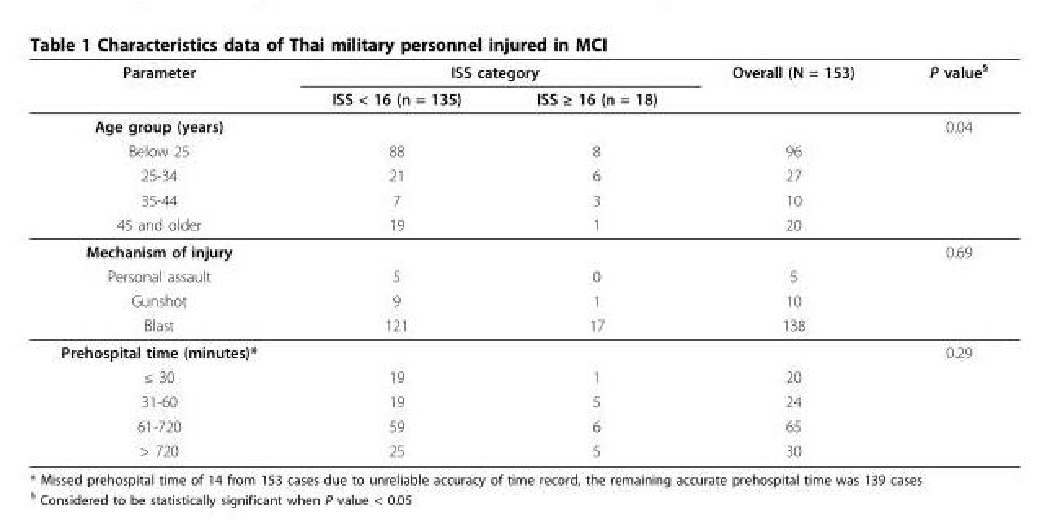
<table><thead><tr><td rowspan="2">Parameter</td><td colspan="2">ISS category</td><td rowspan="2">Overall (N = 153)</td><td rowspan="2">P value<sup>§</sup></td></tr><tr><td>ISS &lt; 16 (n = 135)</td><td>ISS ≥ 16 (n = 18)</td></tr></thead><tbody><tr><td>Age group (years)</td><td></td><td></td><td></td><td>0.04</td></tr><tr><td>Below 25</td><td>88</td><td>8</td><td>96</td><td></td></tr><tr><td>25-34</td><td>21</td><td>6</td><td>27</td><td></td></tr><tr><td>35-44</td><td>7</td><td>3</td><td>10</td><td></td></tr><tr><td>45 and older</td><td>19</td><td>1</td><td>20</td><td></td></tr><tr><td>Mechanism of injury</td><td></td><td></td><td></td><td>0.69</td></tr><tr><td>Personal assault</td><td>5</td><td>0</td><td>5</td><td></td></tr><tr><td>Gunshot</td><td>9</td><td>1</td><td>10</td><td></td></tr><tr><td>Blast</td><td>121</td><td>17</td><td>138</td><td></td></tr><tr><td>Prehospital time (minutes)*</td><td></td><td></td><td></td><td>0.29</td></tr><tr><td>≤ 30</td><td>19</td><td>1</td><td>20</td><td></td></tr><tr><td>31-60</td><td>19</td><td>5</td><td>24</td><td></td></tr><tr><td>61-720</td><td>59</td><td>6</td><td>65</td><td></td></tr><tr><td>&gt; 720</td><td>25</td><td>5</td><td>30</td><td></td></tr></tbody></table>